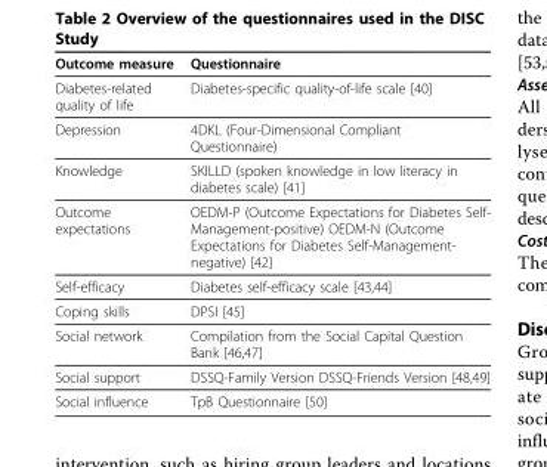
<table><thead><tr><td>Outcome measure</td><td>Questionnaire</td></tr></thead><tbody><tr><td>Diabetes-related quality of life</td><td>Diabetes-specific quality-of-life scale [40]</td></tr><tr><td>Depression</td><td>4DKL (Four-Dimensional Compliant Questionnaire)</td></tr><tr><td>Knowledge</td><td>SKILLD (spoken knowledge in low literacy in diabetes scale) [41]</td></tr><tr><td>Outcome expectations</td><td>OEDM-P (Outcome Expectations for Diabetes Self- Management-positive) OEDM-N (Outcome Expectations for Diabetes Self-Management- negative) [42]</td></tr><tr><td>Self-efficacy</td><td>Diabetes self-efficacy scale [43,44]</td></tr><tr><td>Coping skills</td><td>DPSI [45]</td></tr><tr><td>Social network</td><td>Compilation from the Social Capital Question Bank [46,47]</td></tr><tr><td>Social support</td><td>DSSQ-Family Version DSSQ-Friends Version [48,49]</td></tr><tr><td>Social influence</td><td>TpB Questionnaire [50]</td></tr></tbody></table>